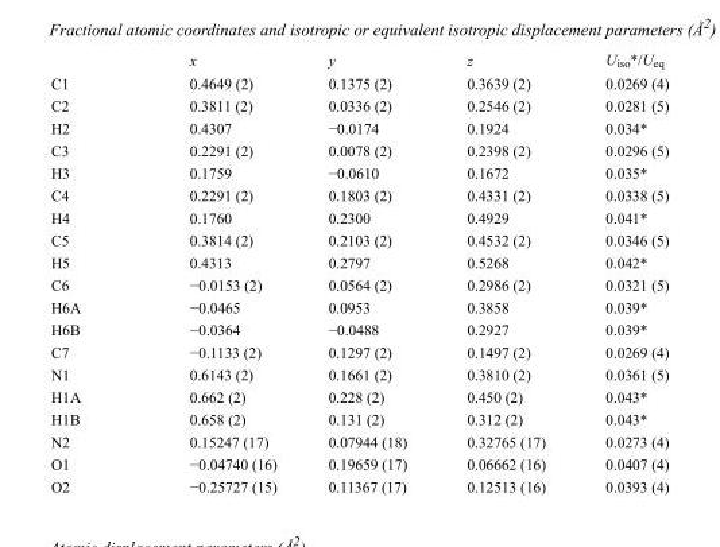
<table><thead><tr><td></td><td>x</td><td>y</td><td>z</td><td>U<sub>iso</sub>*/U<sub>eq</sub></td></tr></thead><tbody><tr><td>C1</td><td>0.4649 (2)</td><td>0.1375 (2)</td><td>0.3639 (2)</td><td>0.0269 (4)</td></tr><tr><td>C2</td><td>0.3811 (2)</td><td>0.0336 (2)</td><td>0.2546 (2)</td><td>0.0281 (5)</td></tr><tr><td>H2</td><td>0.4307</td><td>−0.0174</td><td>0.1924</td><td>0.034*</td></tr><tr><td>C3</td><td>0.2291 (2)</td><td>0.0078 (2)</td><td>0.2398 (2)</td><td>0.0296 (5)</td></tr><tr><td>H3</td><td>0.1759</td><td>−0.0610</td><td>0.1672</td><td>0.035*</td></tr><tr><td>C4</td><td>0.2291 (2)</td><td>0.1803 (2)</td><td>0.4331 (2)</td><td>0.0338 (5)</td></tr><tr><td>H4</td><td>0.1760</td><td>0.2300</td><td>0.4929</td><td>0.041*</td></tr><tr><td>C5</td><td>0.3814 (2)</td><td>0.2103 (2)</td><td>0.4532 (2)</td><td>0.0346 (5)</td></tr><tr><td>H5</td><td>0.4313</td><td>0.2797</td><td>0.5268</td><td>0.042*</td></tr><tr><td>C6</td><td>−0.0153 (2)</td><td>0.0564 (2)</td><td>0.2986 (2)</td><td>0.0321 (5)</td></tr><tr><td>H6A</td><td>−0.0465</td><td>0.0953</td><td>0.3858</td><td>0.039*</td></tr><tr><td>H6B</td><td>−0.0364</td><td>−0.0488</td><td>0.2927</td><td>0.039*</td></tr><tr><td>C7</td><td>−0.1133 (2)</td><td>0.1297 (2)</td><td>0.1497 (2)</td><td>0.0269 (4)</td></tr><tr><td>N1</td><td>0.6143 (2)</td><td>0.1661 (2)</td><td>0.3810 (2)</td><td>0.0361 (5)</td></tr><tr><td>H1A</td><td>0.662 (2)</td><td>0.228 (2)</td><td>0.450 (2)</td><td>0.043*</td></tr><tr><td>H1B</td><td>0.658 (2)</td><td>0.131 (2)</td><td>0.312 (2)</td><td>0.043*</td></tr><tr><td>N2</td><td>0.15247 (17)</td><td>0.07944 (18)</td><td>0.32765 (17)</td><td>0.0273 (4)</td></tr><tr><td>O1</td><td>−0.04740 (16)</td><td>0.19659 (17)</td><td>0.06662 (16)</td><td>0.0407 (4)</td></tr><tr><td>O2</td><td>−0.25727 (15)</td><td>0.11367 (17)</td><td>0.12513 (16)</td><td>0.0393 (4)</td></tr></tbody></table>